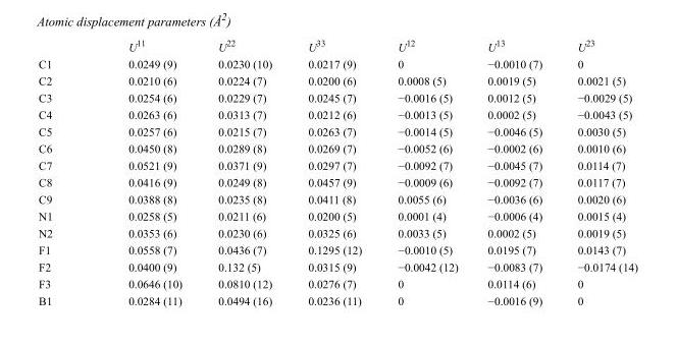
<table><thead><tr><td></td><td>U<sup>11</sup></td><td>U<sup>22</sup></td><td>U<sup>33</sup></td><td>U<sup>12</sup></td><td>U<sup>13</sup></td><td>U<sup>23</sup></td></tr></thead><tbody><tr><td>C1</td><td>0.0249 (9)</td><td>0.0230 (10)</td><td>0.0217 (9)</td><td>0</td><td>−0.0010 (7)</td><td>0</td></tr><tr><td>C2</td><td>0.0210 (6)</td><td>0.0224 (7)</td><td>0.0200 (6)</td><td>0.0008 (5)</td><td>0.0019 (5)</td><td>0.0021 (5)</td></tr><tr><td>C3</td><td>0.0254 (6)</td><td>0.0229 (7)</td><td>0.0245 (7)</td><td>−0.0016 (5)</td><td>0.0012 (5)</td><td>−0.0029 (5)</td></tr><tr><td>C4</td><td>0.0263 (6)</td><td>0.0313 (7)</td><td>0.0212 (6)</td><td>−0.0013 (5)</td><td>0.0002 (5)</td><td>−0.0043 (5)</td></tr><tr><td>C5</td><td>0.0257 (6)</td><td>0.0215 (7)</td><td>0.0263 (7)</td><td>−0.0014 (5)</td><td>−0.0046 (5)</td><td>0.0030 (5)</td></tr><tr><td>C6</td><td>0.0450 (8)</td><td>0.0289 (8)</td><td>0.0269 (7)</td><td>−0.0052 (6)</td><td>−0.0002 (6)</td><td>0.0010 (6)</td></tr><tr><td>C7</td><td>0.0521 (9)</td><td>0.0371 (9)</td><td>0.0297 (7)</td><td>−0.0092 (7)</td><td>−0.0045 (7)</td><td>0.0114 (7)</td></tr><tr><td>C8</td><td>0.0416 (9)</td><td>0.0249 (8)</td><td>0.0457 (9)</td><td>−0.0009 (6)</td><td>−0.0092 (7)</td><td>0.0117 (7)</td></tr><tr><td>C9</td><td>0.0388 (8)</td><td>0.0235 (8)</td><td>0.0411 (8)</td><td>0.0055 (6)</td><td>−0.0036 (6)</td><td>0.0020 (6)</td></tr><tr><td>N1</td><td>0.0258 (5)</td><td>0.0211 (6)</td><td>0.0200 (5)</td><td>0.0001 (4)</td><td>−0.0006 (4)</td><td>0.0015 (4)</td></tr><tr><td>N2</td><td>0.0353 (6)</td><td>0.0230 (6)</td><td>0.0325 (6)</td><td>0.0033 (5)</td><td>0.0002 (5)</td><td>0.0019 (5)</td></tr><tr><td>F1</td><td>0.0558 (7)</td><td>0.0436 (7)</td><td>0.1295 (12)</td><td>−0.0010 (5)</td><td>0.0195 (7)</td><td>0.0143 (7)</td></tr><tr><td>F2</td><td>0.0400 (9)</td><td>0.132 (5)</td><td>0.0315 (9)</td><td>−0.0042 (12)</td><td>−0.0083 (7)</td><td>−0.0174 (14)</td></tr><tr><td>F3</td><td>0.0646 (10)</td><td>0.0810 (12)</td><td>0.0276 (7)</td><td>0</td><td>0.0114 (6)</td><td>0</td></tr><tr><td>B1</td><td>0.0284 (11)</td><td>0.0494 (16)</td><td>0.0236 (11)</td><td>0</td><td>−0.0016 (9)</td><td>0</td></tr></tbody></table>